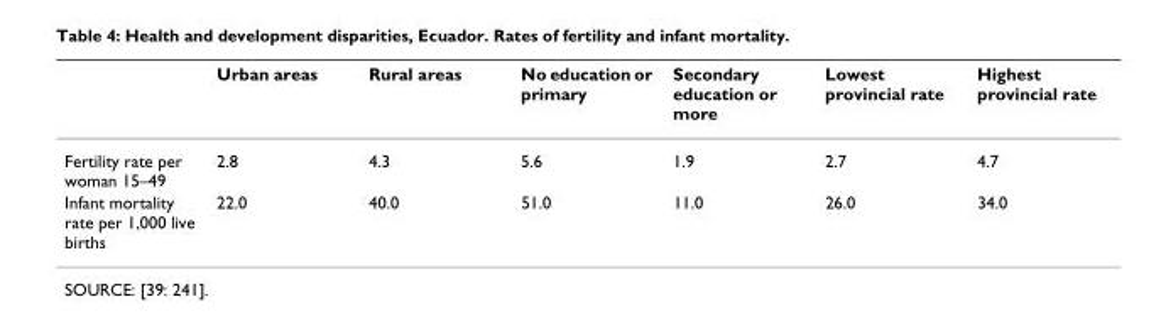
<table><thead><tr><td></td><td>Urban areas</td><td>Rural areas</td><td>No education or primary</td><td>Secondary education or more</td><td>Lowest provincial rate</td><td>Highest provincial rate</td></tr></thead><tbody><tr><td>Fertility rate per woman 15–49</td><td>2.8</td><td>4.3</td><td>5.6</td><td>1.9</td><td>2.7</td><td>4.7</td></tr><tr><td>Infant mortality rate per 1,000 live births</td><td>22.0</td><td>40.0</td><td>51.0</td><td>11.0</td><td>26.0</td><td>34.0</td></tr></tbody></table>